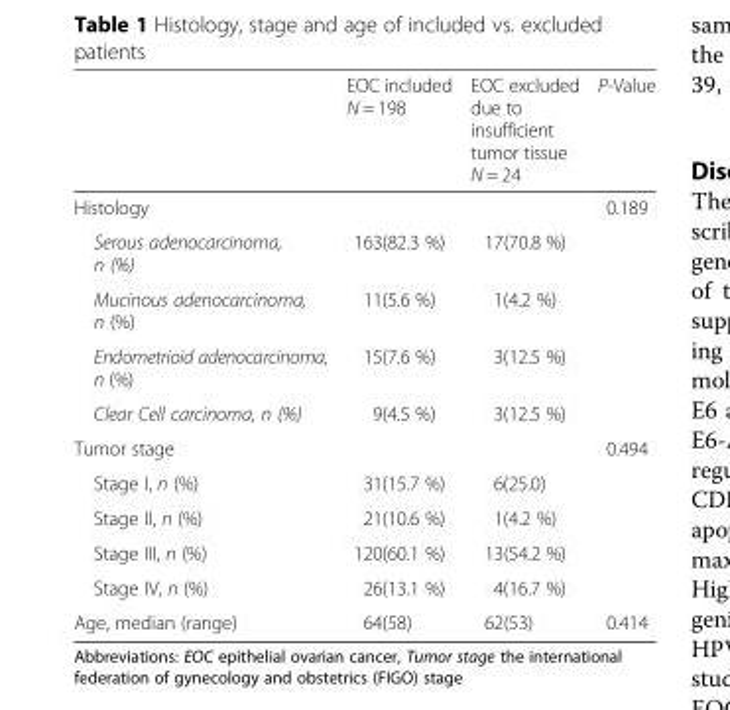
<table><thead><tr><td></td><td>EOC included N = 198</td><td>EOC excluded due to insufficient tumor tissue N = 24</td><td>P-Value</td></tr></thead><tbody><tr><td>Histology</td><td></td><td></td><td>0.189</td></tr><tr><td>Serous adenocarcinoma, n (%)</td><td>163(82.3 %)</td><td>17(70.8 %)</td><td></td></tr><tr><td>Mucinous adenocarcinoma, n (%)</td><td>11(5.6 %)</td><td>1(4.2 %)</td><td></td></tr><tr><td>Endometrioid adenocarcinoma, n (%)</td><td>15(7.6 %)</td><td>3(12.5 %)</td><td></td></tr><tr><td>Clear Cell carcinoma, n (%)</td><td>9(4.5 %)</td><td>3(12.5 %)</td><td></td></tr><tr><td>Tumor stage</td><td></td><td></td><td>0.494</td></tr><tr><td>Stage I, n (%)</td><td>31(15.7 %)</td><td>6(25.0)</td><td></td></tr><tr><td>Stage II, n (%)</td><td>21(10.6 %)</td><td>1(4.2 %)</td><td></td></tr><tr><td>Stage III, n (%)</td><td>120(60.1 %)</td><td>13(54.2 %)</td><td></td></tr><tr><td>Stage IV, n (%)</td><td>26(13.1 %)</td><td>4(16.7 %)</td><td></td></tr><tr><td>Age, median (range)</td><td>64(58)</td><td>62(53)</td><td>0.414</td></tr></tbody></table>